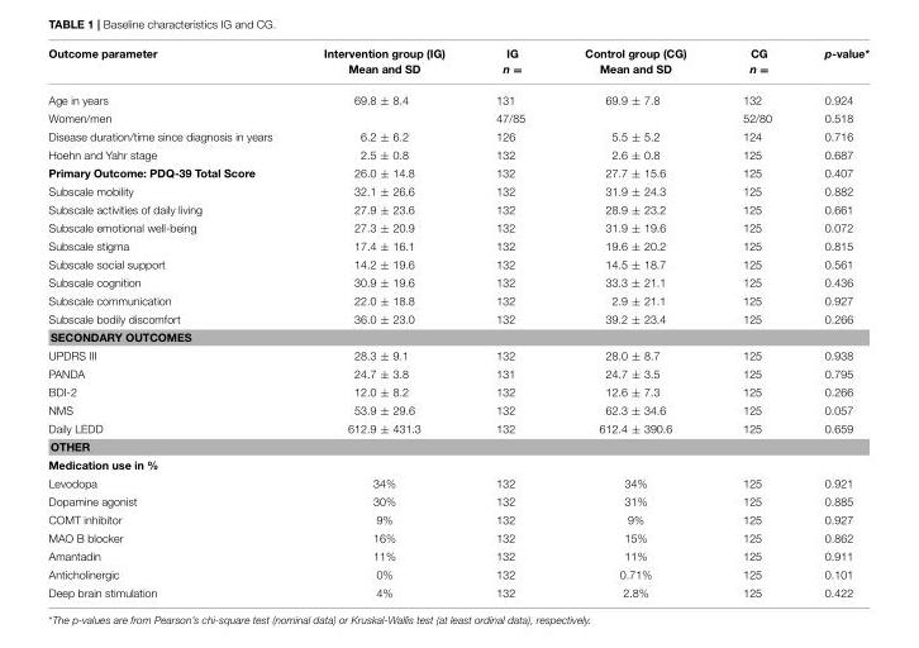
<table><thead><tr><td>Outcome parameter</td><td>Intervention group (IG) Mean and SD</td><td>IG n =</td><td>Control group (CG) Mean and SD</td><td>CG n =</td><td>p-value*</td></tr></thead><tbody><tr><td>Age in years</td><td>69.8 ± 8.4</td><td>131</td><td>69.9 ± 7.8</td><td>132</td><td>0.924</td></tr><tr><td>Women/men</td><td></td><td>47/85</td><td></td><td>52/80</td><td>0.518</td></tr><tr><td>Disease duration/time since diagnosis in years</td><td>6.2 ± 6.2</td><td>126</td><td>5.5 ± 5.2</td><td>124</td><td>0.716</td></tr><tr><td>Hoehn and Yahr stage</td><td>2.5 ± 0.8</td><td>132</td><td>2.6 ± 0.8</td><td>125</td><td>0.687</td></tr><tr><td>Primary Outcome: PDQ-39 Total Score</td><td>26.0 ± 14.8</td><td>132</td><td>27.7 ± 15.6</td><td>125</td><td>0.407</td></tr><tr><td>Subscale mobility</td><td>32.1 ± 26.6</td><td>132</td><td>31.9 ± 24.3</td><td>125</td><td>0.882</td></tr><tr><td>Subscale activities of daily living</td><td>27.9 ± 23.6</td><td>132</td><td>28.9 ± 23.2</td><td>125</td><td>0.661</td></tr><tr><td>Subscale emotional well-being</td><td>27.3 ± 20.9</td><td>132</td><td>31.9 ± 19.6</td><td>125</td><td>0.072</td></tr><tr><td>Subscale stigma</td><td>17.4 ± 16.1</td><td>132</td><td>19.6 ± 20.2</td><td>125</td><td>0.815</td></tr><tr><td>Subscale social support</td><td>14.2 ± 19.6</td><td>132</td><td>14.5 ± 18.7</td><td>125</td><td>0.561</td></tr><tr><td>Subscale cognition</td><td>30.9 ± 19.6</td><td>132</td><td>33.3 ± 21.1</td><td>125</td><td>0.436</td></tr><tr><td>Subscale communication</td><td>22.0 ± 18.8</td><td>132</td><td>2.9 ± 21.1</td><td>125</td><td>0.927</td></tr><tr><td>Subscale bodily discomfort</td><td>36.0 ± 23.0</td><td>132</td><td>39.2 ± 23.4</td><td>125</td><td>0.266</td></tr><tr><td colspan="6">SECONDARY OUTCOMES</td></tr><tr><td>UPDRS III</td><td>28.3 ± 9.1</td><td>132</td><td>28.0 ± 8.7</td><td>125</td><td>0.938</td></tr><tr><td>PANDA</td><td>24.7 ± 3.8</td><td>131</td><td>24.7 ± 3.5</td><td>125</td><td>0.795</td></tr><tr><td>BDI-2</td><td>12.0 ± 8.2</td><td>132</td><td>12.6 ± 7.3</td><td>125</td><td>0.266</td></tr><tr><td>NMS</td><td>53.9 ± 29.6</td><td>132</td><td>62.3 ± 34.6</td><td>125</td><td>0.057</td></tr><tr><td>Daily LEDD</td><td>612.9 ± 431.3</td><td>132</td><td>612.4 ± 390.6</td><td>125</td><td>0.659</td></tr><tr><td colspan="6">OTHER</td></tr><tr><td colspan="6">Medication use in %</td></tr><tr><td>Levodopa</td><td>34%</td><td>132</td><td>34%</td><td>125</td><td>0.921</td></tr><tr><td>Dopamine agonist</td><td>30%</td><td>132</td><td>31%</td><td>125</td><td>0.885</td></tr><tr><td>COMT inhibitor</td><td>9%</td><td>132</td><td>9%</td><td>125</td><td>0.927</td></tr><tr><td>MAO B blocker</td><td>16%</td><td>132</td><td>15%</td><td>125</td><td>0.862</td></tr><tr><td>Amantadin</td><td>11%</td><td>132</td><td>11%</td><td>125</td><td>0.911</td></tr><tr><td>Anticholinergic</td><td>0%</td><td>132</td><td>0.71%</td><td>125</td><td>0.101</td></tr><tr><td>Deep brain stimulation</td><td>4%</td><td>132</td><td>2.8%</td><td>125</td><td>0.422</td></tr></tbody></table>